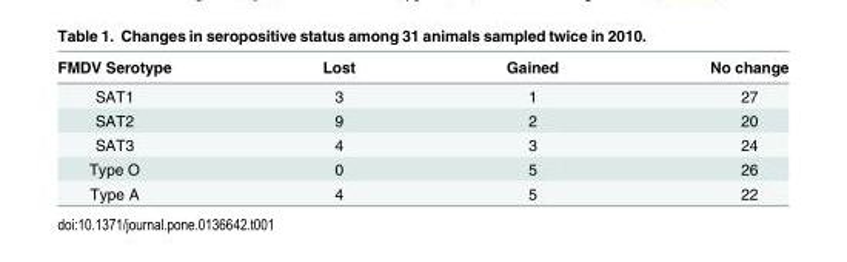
<table><thead><tr><td>FMDV Serotype</td><td>Lost</td><td>Gained</td><td>No change</td></tr></thead><tbody><tr><td>SAT1</td><td>3</td><td>1</td><td>27</td></tr><tr><td>SAT2</td><td>9</td><td>2</td><td>20</td></tr><tr><td>SAT3</td><td>4</td><td>3</td><td>24</td></tr><tr><td>Type O</td><td>0</td><td>5</td><td>26</td></tr><tr><td>Type A</td><td>4</td><td>5</td><td>22</td></tr></tbody></table>